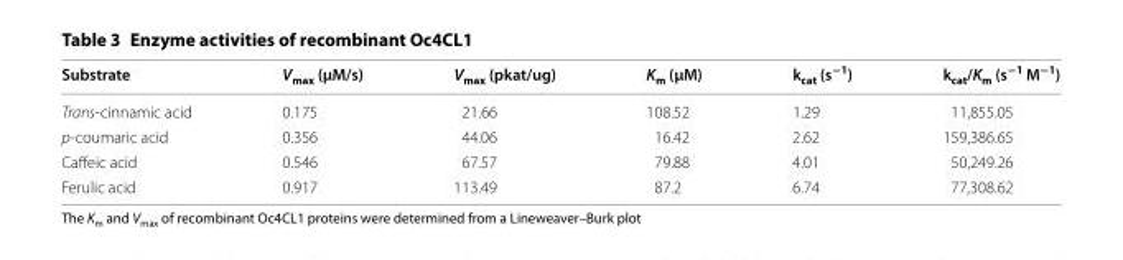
<table><thead><tr><td>Substrate</td><td>V<sub>max</sub> (µM/s)</td><td>V<sub>max</sub> (pkat/ug)</td><td>K<sub>m</sub> (µM)</td><td>k<sub>cat</sub> (s<sup>−1</sup>)</td><td>k<sub>cat</sub>/K<sub>m</sub> (s<sup>−1</sup> M<sup>−1</sup>)</td></tr></thead><tbody><tr><td>Trans‑cinnamic acid</td><td>0.175</td><td>21.66</td><td>108.52</td><td>1.29</td><td>11,855.05</td></tr><tr><td>p‑coumaric acid</td><td>0.356</td><td>44.06</td><td>16.42</td><td>2.62</td><td>159,386.65</td></tr><tr><td>Caffeic acid</td><td>0.546</td><td>67.57</td><td>79.88</td><td>4.01</td><td>50,249.26</td></tr><tr><td>Ferulic acid</td><td>0.917</td><td>113.49</td><td>87.2</td><td>6.74</td><td>77,308.62</td></tr></tbody></table>